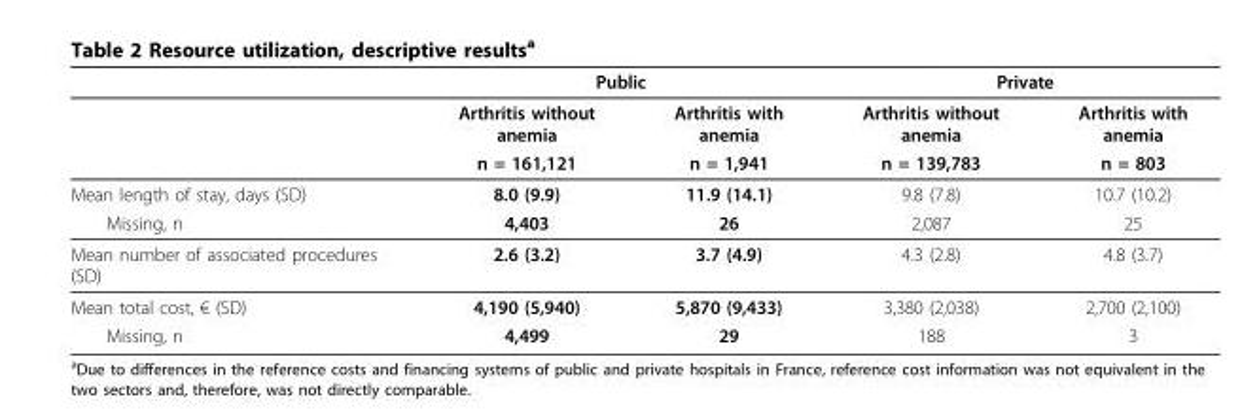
<table><thead><tr><td rowspan="2"></td><td colspan="2">Public</td><td colspan="2">Private</td></tr><tr><td>Arthritis without anemia</td><td>Arthritis with anemia</td><td>Arthritis without anemia</td><td>Arthritis with anemia</td></tr></thead><tbody><tr><td></td><td>n = 161,121</td><td>n = 1,941</td><td>n = 139,783</td><td>n = 803</td></tr><tr><td>Mean length of stay, days (SD)</td><td>8.0 (9.9)</td><td>11.9 (14.1)</td><td>9.8 (7.8)</td><td>10.7 (10.2)</td></tr><tr><td>Missing, n</td><td>4,403</td><td>26</td><td>2,087</td><td>25</td></tr><tr><td>Mean number of associated procedures (SD)</td><td>2.6 (3.2)</td><td>3.7 (4.9)</td><td>4.3 (2.8)</td><td>4.8 (3.7)</td></tr><tr><td>Mean total cost, € (SD)</td><td>4,190 (5,940)</td><td>5,870 (9,433)</td><td>3,380 (2,038)</td><td>2,700 (2,100)</td></tr><tr><td>Missing, n</td><td>4,499</td><td>29</td><td>188</td><td>3</td></tr></tbody></table>